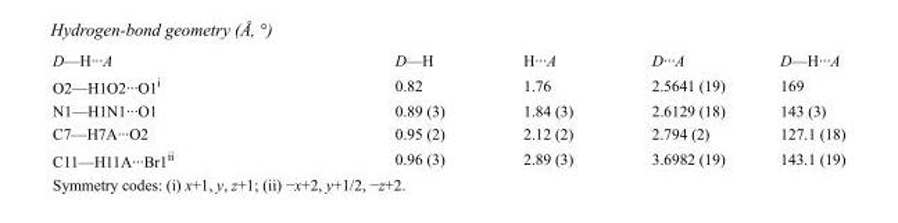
<table><tbody><tr><td>D—H···A</td><td>D—H</td><td>H···A</td><td>D···A</td><td>D—H···A</td></tr><tr><td>O2—H1O2···O1<sup>i</sup></td><td>0.82</td><td>1.76</td><td>2.5641 (19)</td><td>169</td></tr><tr><td>N1—H1N1···O1</td><td>0.89 (3)</td><td>1.84 (3)</td><td>2.6129 (18)</td><td>143 (3)</td></tr><tr><td>C7—H7A···O2</td><td>0.95 (2)</td><td>2.12 (2)</td><td>2.794 (2)</td><td>127.1 (18)</td></tr><tr><td>C11—H11A···Br1<sup>ii</sup></td><td>0.96 (3)</td><td>2.89 (3)</td><td>3.6982 (19)</td><td>143.1 (19)</td></tr></tbody></table>